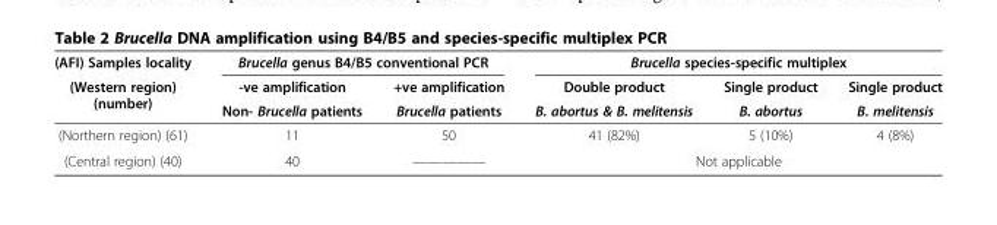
<table><thead><tr><td rowspan="3">(AFI) Samples locality (Western region) (number)</td><td colspan="2">Brucella genus B4/B5 conventional PCR</td><td colspan="3">Brucella species-specific multiplex</td></tr><tr><td rowspan="2">-ve amplification Non- Brucella patients</td><td rowspan="2">+ve amplification Brucella patients</td><td rowspan="2">Double product B. abortus &amp; B. melitensis</td><td rowspan="2">Single product B. abortus</td><td rowspan="2">Single product B. melitensis</td></tr><tr></tr></thead><tbody><tr><td>(Northern region) (61)</td><td>11</td><td>50</td><td>41 (82%)</td><td>5 (10%)</td><td>4 (8%)</td></tr><tr><td>(Central region) (40)</td><td>40</td><td>—————</td><td colspan="3">Not applicable</td></tr></tbody></table>